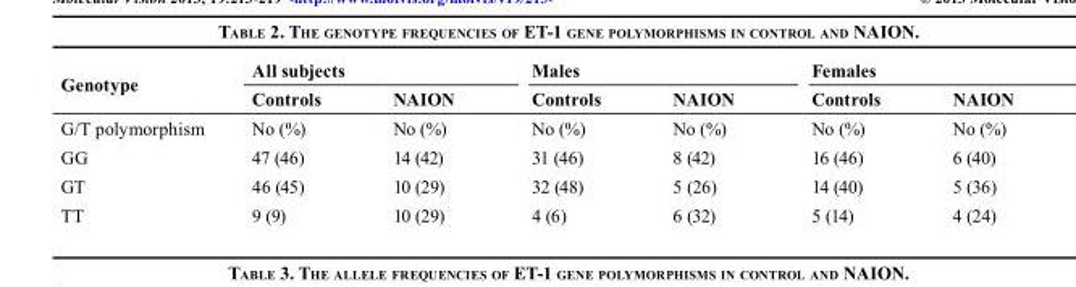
<table><thead><tr><td rowspan="2">Genotype</td><td colspan="2">All subjects</td><td colspan="2">Males</td><td colspan="2">Females</td></tr><tr><td>Controls</td><td>NAION</td><td>Controls</td><td>NAION</td><td>Controls</td><td>NAION</td></tr></thead><tbody><tr><td>G/T polymorphism</td><td>No (%)</td><td>No (%)</td><td>No (%)</td><td>No (%)</td><td>No (%)</td><td>No (%)</td></tr><tr><td>GG</td><td>47 (46)</td><td>14 (42)</td><td>31 (46)</td><td>8 (42)</td><td>16 (46)</td><td>6 (40)</td></tr><tr><td>GT</td><td>46 (45)</td><td>10 (29)</td><td>32 (48)</td><td>5 (26)</td><td>14 (40)</td><td>5 (36)</td></tr><tr><td>TT</td><td>9 (9)</td><td>10 (29)</td><td>4 (6)</td><td>6 (32)</td><td>5 (14)</td><td>4 (24)</td></tr></tbody></table>